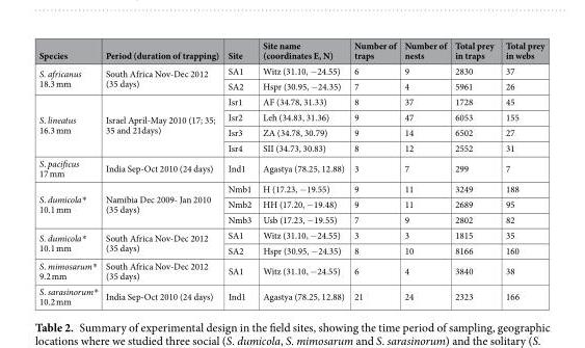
<table><thead><tr><td>Species</td><td>Period (duration of trapping)</td><td>Site</td><td>Site name (coordinates E, N)</td><td>Number of traps</td><td>Number of nests</td><td>Total prey in traps</td><td>Total prey in webs</td></tr></thead><tbody><tr><td rowspan="2">S. africanus 18.3 mm</td><td rowspan="2">South Africa Nov-Dec 2012 (35 days)</td><td>SA1</td><td>Witz (31.10, −24.55)</td><td>6</td><td>9</td><td>2830</td><td>37</td></tr><tr><td>SA2</td><td>Hspr (30.95, −24.35)</td><td>7</td><td>4</td><td>5961</td><td>26</td></tr><tr><td rowspan="4">S. lineatus 16.3 mm</td><td rowspan="4">Israel April-May 2010 (17; 35; 35 and 21days)</td><td>Isr1</td><td>AF (34.78, 31.33)</td><td>8</td><td>37</td><td>1728</td><td>45</td></tr><tr><td>Isr2</td><td>Leh (34.83, 31.36)</td><td>9</td><td>47</td><td>6053</td><td>155</td></tr><tr><td>Isr3</td><td>ZA (34.78, 30.79)</td><td>9</td><td>14</td><td>6502</td><td>27</td></tr><tr><td>Isr4</td><td>SII (34.73, 30.83)</td><td>8</td><td>12</td><td>2552</td><td>31</td></tr><tr><td>S. pacificus 17 mm</td><td>India Sep-Oct 2010 (24 days)</td><td>Ind1</td><td>Agastya (78.25, 12.88)</td><td>3</td><td>7</td><td>299</td><td>7</td></tr><tr><td rowspan="3">S. dumicola* 10.1 mm</td><td rowspan="3">Namibia Dec 2009- Jan 2010 (35 days)</td><td>Nmb1</td><td>H (17.23, −19.55)</td><td>9</td><td>11</td><td>3249</td><td>188</td></tr><tr><td>Nmb2</td><td>HH (17.20, −19.48)</td><td>9</td><td>11</td><td>2689</td><td>95</td></tr><tr><td>Nmb3</td><td>Usb (17.23, −19.55)</td><td>7</td><td>9</td><td>2802</td><td>82</td></tr><tr><td rowspan="2">S. dumicola* 10.1 mm</td><td rowspan="2">South Africa Nov-Dec 2012 (35 days)</td><td>SA1</td><td>Witz (31.10, −24.55)</td><td>3</td><td>3</td><td>1815</td><td>35</td></tr><tr><td>SA2</td><td>Hspr (30.95, −24.35)</td><td>8</td><td>10</td><td>8166</td><td>160</td></tr><tr><td>S. mimosarum* 9.2 mm</td><td>South Africa Nov-Dec 2012 (35 days)</td><td>SA1</td><td>Witz (31.10, −24.55)</td><td>6</td><td>4</td><td>3840</td><td>38</td></tr><tr><td>S. sarasinorum* 10.2 mm</td><td>India Sep-Oct 2010 (24 days)</td><td>Ind1</td><td>Agastya (78.25, 12.88)</td><td>21</td><td>24</td><td>2323</td><td>166</td></tr></tbody></table>